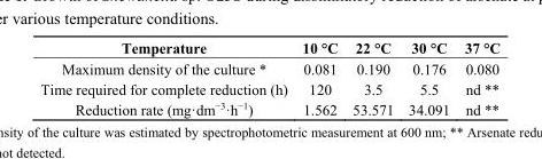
<table><thead><tr><td>Temperature</td><td>10 °C</td><td>22 °C</td><td>30 °C</td><td>37 °C</td></tr></thead><tbody><tr><td>Maximum density of the culture *</td><td>0.081</td><td>0.190</td><td>0.176</td><td>0.080</td></tr><tr><td>Time required for complete reduction (h)</td><td>120</td><td>3.5</td><td>5.5</td><td>nd **</td></tr><tr><td>Reduction rate (mg·dm<sup>−3</sup>·h<sup>−1</sup>)</td><td>1.562</td><td>53.571</td><td>34.091</td><td>nd **</td></tr></tbody></table>